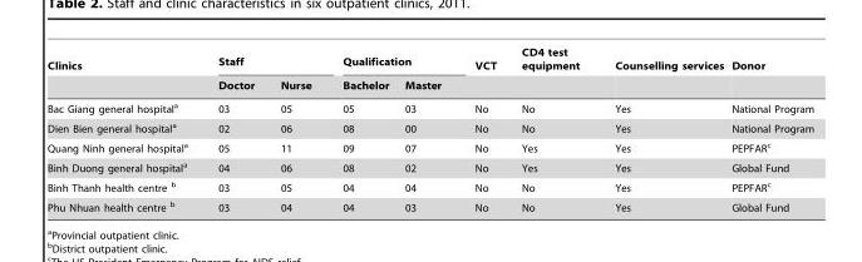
<table><thead><tr><td rowspan="2">Clinics</td><td colspan="2">Staff</td><td colspan="2">Qualification</td><td rowspan="2">VCT</td><td rowspan="2">CD4 test equipment</td><td rowspan="2">Counselling services</td><td rowspan="2">Donor</td></tr><tr><td>Doctor</td><td>Nurse</td><td>Bachelor</td><td>Master</td></tr></thead><tbody><tr><td>Bac Giang general hospital<sup>a</sup></td><td>03</td><td>05</td><td>05</td><td>03</td><td>No</td><td>No</td><td>Yes</td><td>National Program</td></tr><tr><td>Dien Bien general hospital<sup>a</sup></td><td>02</td><td>06</td><td>08</td><td>00</td><td>No</td><td>No</td><td>Yes</td><td>National Program</td></tr><tr><td>Quang Ninh general hospital<sup>a</sup></td><td>05</td><td>11</td><td>09</td><td>07</td><td>No</td><td>Yes</td><td>Yes</td><td>PEPFAR<sup>c</sup></td></tr><tr><td>Binh Duong general hospital<sup>a</sup></td><td>04</td><td>06</td><td>08</td><td>02</td><td>No</td><td>Yes</td><td>Yes</td><td>Global Fund</td></tr><tr><td>Binh Thanh health centre b</td><td>03</td><td>05</td><td>04</td><td>04</td><td>No</td><td>No</td><td>Yes</td><td>PEPFAR<sup>c</sup></td></tr><tr><td>Phu Nhuan health centre b</td><td>03</td><td>04</td><td>04</td><td>03</td><td>No</td><td>No</td><td>Yes</td><td>Global Fund</td></tr></tbody></table>